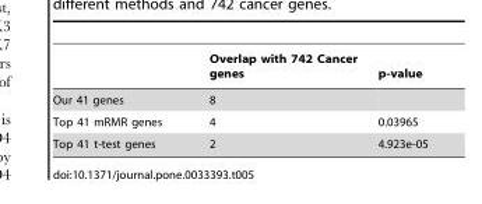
<table><thead><tr><td></td><td>Overlap with 742 Cancer genes</td><td>p-value</td></tr></thead><tbody><tr><td>Our 41 genes</td><td>8</td><td></td></tr><tr><td>Top 41 mRMR genes</td><td>4</td><td>0.03965</td></tr><tr><td>Top 41 t-test genes</td><td>2</td><td>4.923e-05</td></tr></tbody></table>